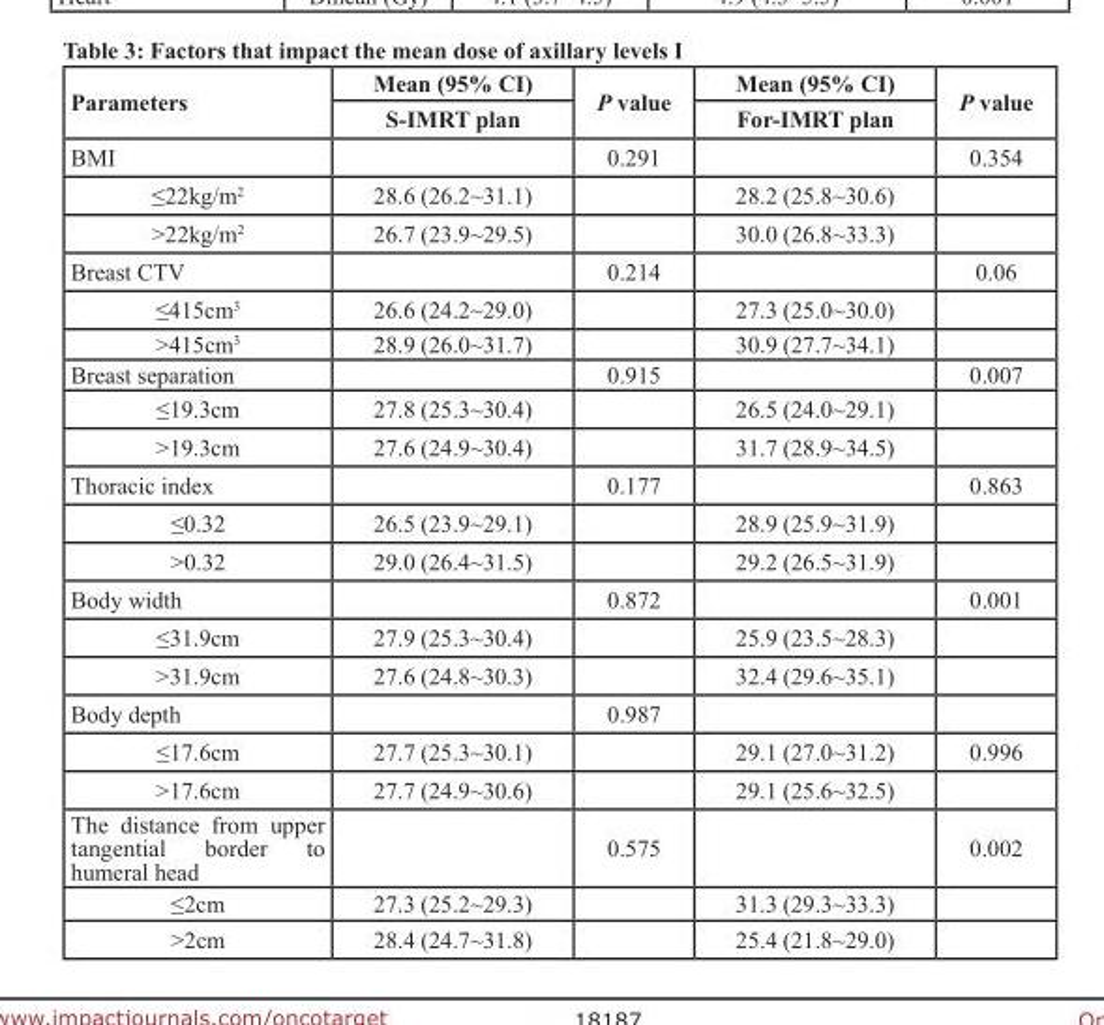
<table><thead><tr><td rowspan="2">Parameters</td><td rowspan="2">Mean (95% CI) S-IMRT plan</td><td rowspan="2">P value</td><td rowspan="2">Mean (95% CI) For-IMRT plan</td><td rowspan="2">P value</td></tr><tr></tr></thead><tbody><tr><td>BMI</td><td></td><td>0.291</td><td></td><td>0.354</td></tr><tr><td>≤22kg/m<sup>2</sup></td><td>28.6 (26.2~31.1)</td><td></td><td>28.2 (25.8~30.6)</td><td></td></tr><tr><td>&gt;22kg/m<sup>2</sup></td><td>26.7 (23.9~29.5)</td><td></td><td>30.0 (26.8~33.3)</td><td></td></tr><tr><td>Breast CTV</td><td></td><td>0.214</td><td></td><td>0.06</td></tr><tr><td>≤415cm<sup>3</sup></td><td>26.6 (24.2~29.0)</td><td></td><td>27.3 (25.0~30.0)</td><td></td></tr><tr><td>&gt;415cm<sup>3</sup></td><td>28.9 (26.0~31.7)</td><td></td><td>30.9 (27.7~34.1)</td><td></td></tr><tr><td>Breast separation</td><td></td><td>0.915</td><td></td><td>0.007</td></tr><tr><td>≤19.3cm</td><td>27.8 (25.3~30.4)</td><td></td><td>26.5 (24.0~29.1)</td><td></td></tr><tr><td>&gt;19.3cm</td><td>27.6 (24.9~30.4)</td><td></td><td>31.7 (28.9~34.5)</td><td></td></tr><tr><td>Thoracic index</td><td></td><td>0.177</td><td></td><td>0.863</td></tr><tr><td>≤0.32</td><td>26.5 (23.9~29.1)</td><td></td><td>28.9 (25.9~31.9)</td><td></td></tr><tr><td>&gt;0.32</td><td>29.0 (26.4~31.5)</td><td></td><td>29.2 (26.5~31.9)</td><td></td></tr><tr><td>Body width</td><td></td><td>0.872</td><td></td><td>0.001</td></tr><tr><td>≤31.9cm</td><td>27.9 (25.3~30.4)</td><td></td><td>25.9 (23.5~28.3)</td><td></td></tr><tr><td>&gt;31.9cm</td><td>27.6 (24.8~30.3)</td><td></td><td>32.4 (29.6~35.1)</td><td></td></tr><tr><td>Body depth</td><td></td><td>0.987</td><td></td><td></td></tr><tr><td>≤17.6cm</td><td>27.7 (25.3~30.1)</td><td></td><td>29.1 (27.0~31.2)</td><td>0.996</td></tr><tr><td>&gt;17.6cm</td><td>27.7 (24.9~30.6)</td><td></td><td>29.1 (25.6~32.5)</td><td></td></tr><tr><td>The distance from upper tangential border to humeral head</td><td></td><td>0.575</td><td></td><td>0.002</td></tr><tr><td>≤2cm</td><td>27.3 (25.2~29.3)</td><td></td><td>31.3 (29.3~33.3)</td><td></td></tr><tr><td>&gt;2cm</td><td>28.4 (24.7~31.8)</td><td></td><td>25.4 (21.8~29.0)</td><td></td></tr></tbody></table>